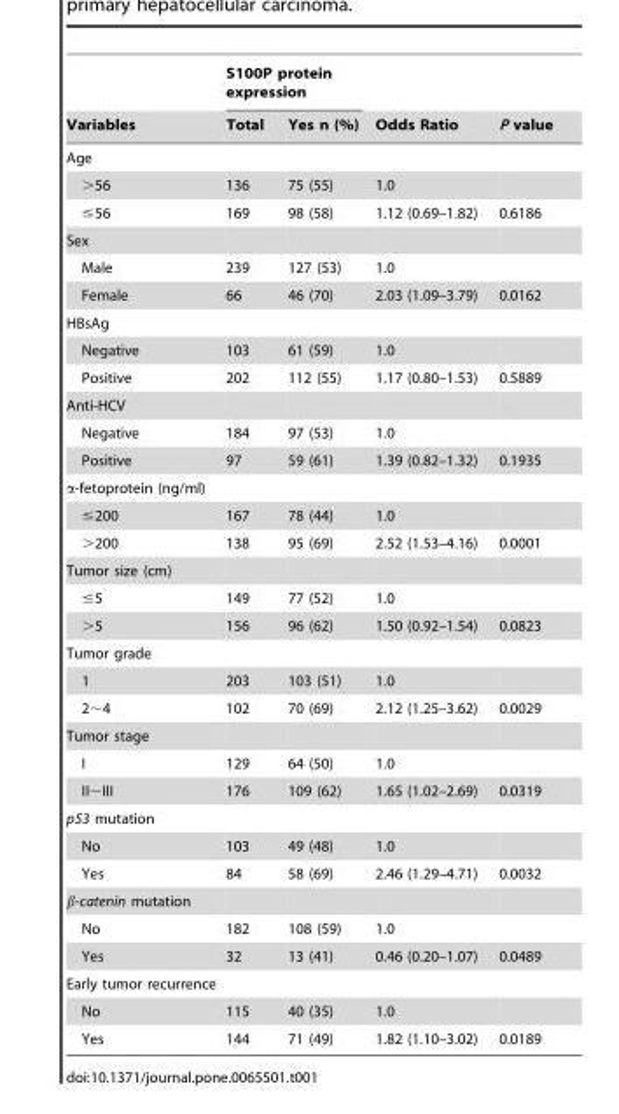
<table><thead><tr><td rowspan="2">Variables</td><td colspan="2">S100P protein expression</td><td rowspan="2">Odds Ratio</td><td rowspan="2">P value</td></tr><tr><td>Total</td><td>Yes n (%)</td></tr></thead><tbody><tr><td colspan="5">Age</td></tr><tr><td>&gt;56</td><td>136</td><td>75 (55)</td><td>1.0</td><td></td></tr><tr><td>≤56</td><td>169</td><td>98 (58)</td><td>1.12 (0.69–1.82)</td><td>0.6186</td></tr><tr><td colspan="5">Sex</td></tr><tr><td>Male</td><td>239</td><td>127 (53)</td><td>1.0</td><td></td></tr><tr><td>Female</td><td>66</td><td>46 (70)</td><td>2.03 (1.09–3.79)</td><td>0.0162</td></tr><tr><td colspan="5">HBsAg</td></tr><tr><td>Negative</td><td>103</td><td>61 (59)</td><td>1.0</td><td></td></tr><tr><td>Positive</td><td>202</td><td>112 (55)</td><td>1.17 (0.80–1.53)</td><td>0.5889</td></tr><tr><td colspan="5">Anti-HCV</td></tr><tr><td>Negative</td><td>184</td><td>97 (53)</td><td>1.0</td><td></td></tr><tr><td>Positive</td><td>97</td><td>59 (61)</td><td>1.39 (0.82–1.32)</td><td>0.1935</td></tr><tr><td colspan="5">α-fetoprotein (ng/ml)</td></tr><tr><td>≤200</td><td>167</td><td>78 (44)</td><td>1.0</td><td></td></tr><tr><td>&gt;200</td><td>138</td><td>95 (69)</td><td>2.52 (1.53–4.16)</td><td>0.0001</td></tr><tr><td colspan="5">Tumor size (cm)</td></tr><tr><td>≤5</td><td>149</td><td>77 (52)</td><td>1.0</td><td></td></tr><tr><td>&gt;5</td><td>156</td><td>96 (62)</td><td>1.50 (0.92–1.54)</td><td>0.0823</td></tr><tr><td colspan="5">Tumor grade</td></tr><tr><td>1</td><td>203</td><td>103 (51)</td><td>1.0</td><td></td></tr><tr><td>2∼4</td><td>102</td><td>70 (69)</td><td>2.12 (1.25–3.62)</td><td>0.0029</td></tr><tr><td colspan="5">Tumor stage</td></tr><tr><td>I</td><td>129</td><td>64 (50)</td><td>1.0</td><td></td></tr><tr><td>II∼III</td><td>176</td><td>109 (62)</td><td>1.65 (1.02–2.69)</td><td>0.0319</td></tr><tr><td colspan="5">p53 mutation</td></tr><tr><td>No</td><td>103</td><td>49 (48)</td><td>1.0</td><td></td></tr><tr><td>Yes</td><td>84</td><td>58 (69)</td><td>2.46 (1.29–4.71)</td><td>0.0032</td></tr><tr><td colspan="5">β-catenin mutation</td></tr><tr><td>No</td><td>182</td><td>108 (59)</td><td>1.0</td><td></td></tr><tr><td>Yes</td><td>32</td><td>13 (41)</td><td>0.46 (0.20–1.07)</td><td>0.0489</td></tr><tr><td colspan="5">Early tumor recurrence</td></tr><tr><td>No</td><td>115</td><td>40 (35)</td><td>1.0</td><td></td></tr><tr><td>Yes</td><td>144</td><td>71 (49)</td><td>1.82 (1.10–3.02)</td><td>0.0189</td></tr></tbody></table>